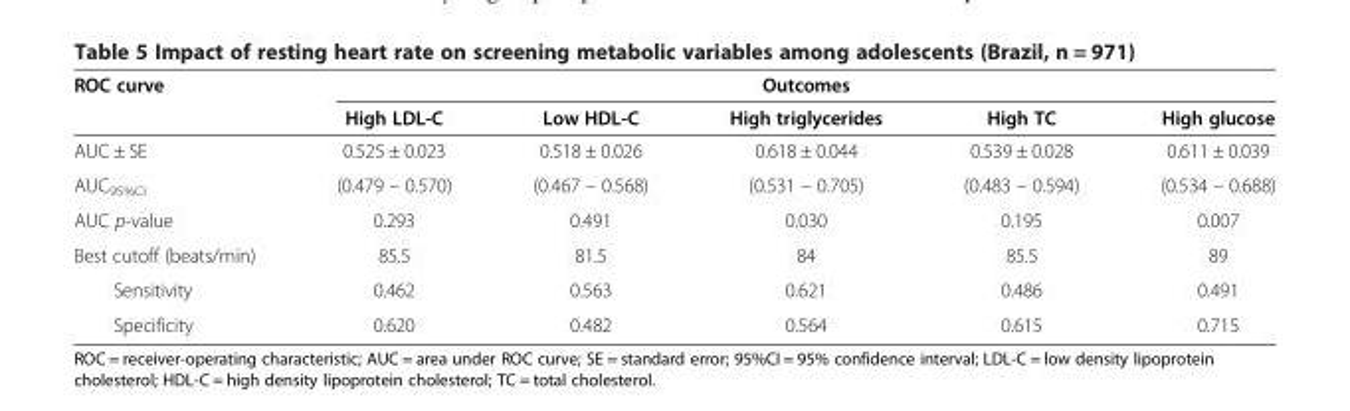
<table><thead><tr><td rowspan="2">ROC curve</td><td colspan="5">Outcomes</td></tr><tr><td>High LDL-C</td><td>Low HDL-C</td><td>High triglycerides</td><td>High TC</td><td>High glucose</td></tr></thead><tbody><tr><td>AUC ± SE</td><td>0.525 ± 0.023</td><td>0.518 ± 0.026</td><td>0.618 ± 0.044</td><td>0.539 ± 0.028</td><td>0.611 ± 0.039</td></tr><tr><td>AUC<sub>95%CI</sub></td><td>(0.479 – 0.570)</td><td>(0.467 – 0.568)</td><td>(0.531 – 0.705)</td><td>(0.483 – 0.594)</td><td>(0.534 – 0.688)</td></tr><tr><td>AUC p-value</td><td>0.293</td><td>0.491</td><td>0.030</td><td>0.195</td><td>0.007</td></tr><tr><td>Best cutoff (beats/min)</td><td>85.5</td><td>81.5</td><td>84</td><td>85.5</td><td>89</td></tr><tr><td>Sensitivity</td><td>0.462</td><td>0.563</td><td>0.621</td><td>0.486</td><td>0.491</td></tr><tr><td>Specificity</td><td>0.620</td><td>0.482</td><td>0.564</td><td>0.615</td><td>0.715</td></tr></tbody></table>